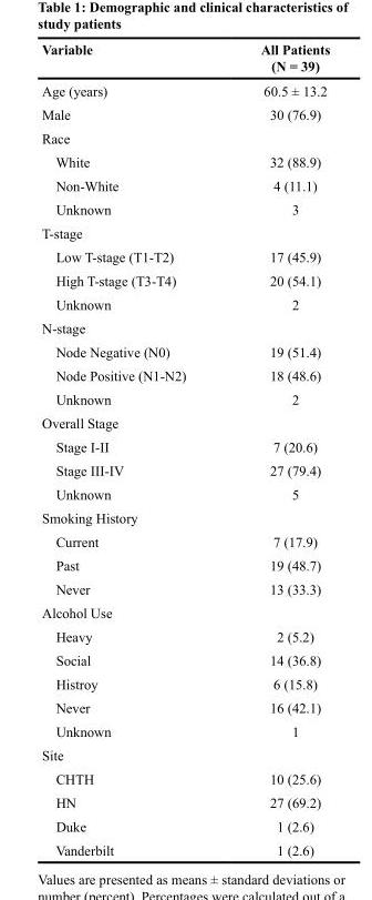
<table><thead><tr><td>Variable</td><td>All Patients (N = 39)</td></tr></thead><tbody><tr><td>Age (years)</td><td>60.5 ± 13.2</td></tr><tr><td>Male</td><td>30 (76.9)</td></tr><tr><td colspan="2">Race</td></tr><tr><td>White</td><td>32 (88.9)</td></tr><tr><td>Non-White</td><td>4 (11.1)</td></tr><tr><td>Unknown</td><td>3</td></tr><tr><td colspan="2">T-stage</td></tr><tr><td>Low T-stage (T1-T2)</td><td>17 (45.9)</td></tr><tr><td>High T-stage (T3-T4)</td><td>20 (54.1)</td></tr><tr><td>Unknown</td><td>2</td></tr><tr><td colspan="2">N-stage</td></tr><tr><td>Node Negative (N0)</td><td>19 (51.4)</td></tr><tr><td>Node Positive (N1-N2)</td><td>18 (48.6)</td></tr><tr><td>Unknown</td><td>2</td></tr><tr><td colspan="2">Overall Stage</td></tr><tr><td>Stage I-II</td><td>7 (20.6)</td></tr><tr><td>Stage III-IV</td><td>27 (79.4)</td></tr><tr><td>Unknown</td><td>5</td></tr><tr><td colspan="2">Smoking History</td></tr><tr><td>Current</td><td>7 (17.9)</td></tr><tr><td>Past</td><td>19 (48.7)</td></tr><tr><td>Never</td><td>13 (33.3)</td></tr><tr><td colspan="2">Alcohol Use</td></tr><tr><td>Heavy</td><td>2 (5.2)</td></tr><tr><td>Social</td><td>14 (36.8)</td></tr><tr><td>Histroy</td><td>6 (15.8)</td></tr><tr><td>Never</td><td>16 (42.1)</td></tr><tr><td>Unknown</td><td>1</td></tr><tr><td colspan="2">Site</td></tr><tr><td>CHTH</td><td>10 (25.6)</td></tr><tr><td>HN</td><td>27 (69.2)</td></tr><tr><td>Duke</td><td>1 (2.6)</td></tr><tr><td>Vanderbilt</td><td>1 (2.6)</td></tr></tbody></table>